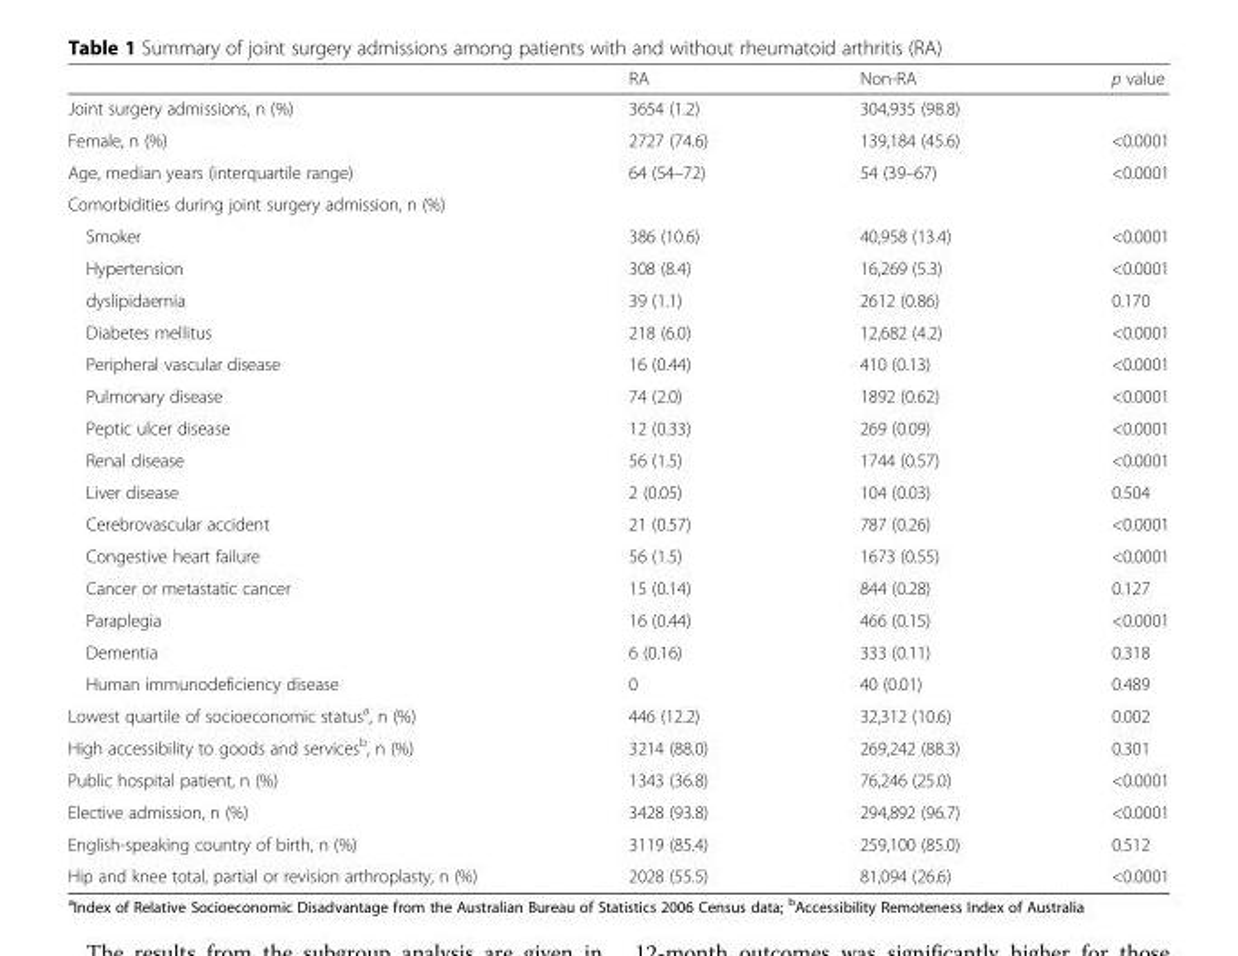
<table><thead><tr><td></td><td>RA</td><td>Non-RA</td><td>p value</td></tr></thead><tbody><tr><td>Joint surgery admissions, n (%)</td><td>3654 (1.2)</td><td>304,935 (98.8)</td><td></td></tr><tr><td>Female, n (%)</td><td>2727 (74.6)</td><td>139,184 (45.6)</td><td>&lt;0.0001</td></tr><tr><td>Age, median years (interquartile range)</td><td>64 (54–72)</td><td>54 (39–67)</td><td>&lt;0.0001</td></tr><tr><td colspan="4">Comorbidities during joint surgery admission, n (%)</td></tr><tr><td>Smoker</td><td>386 (10.6)</td><td>40,958 (13.4)</td><td>&lt;0.0001</td></tr><tr><td>Hypertension</td><td>308 (8.4)</td><td>16,269 (5.3)</td><td>&lt;0.0001</td></tr><tr><td>dyslipidaemia</td><td>39 (1.1)</td><td>2612 (0.86)</td><td>0.170</td></tr><tr><td>Diabetes mellitus</td><td>218 (6.0)</td><td>12,682 (4.2)</td><td>&lt;0.0001</td></tr><tr><td>Peripheral vascular disease</td><td>16 (0.44)</td><td>410 (0.13)</td><td>&lt;0.0001</td></tr><tr><td>Pulmonary disease</td><td>74 (2.0)</td><td>1892 (0.62)</td><td>&lt;0.0001</td></tr><tr><td>Peptic ulcer disease</td><td>12 (0.33)</td><td>269 (0.09)</td><td>&lt;0.0001</td></tr><tr><td>Renal disease</td><td>56 (1.5)</td><td>1744 (0.57)</td><td>&lt;0.0001</td></tr><tr><td>Liver disease</td><td>2 (0.05)</td><td>104 (0.03)</td><td>0.504</td></tr><tr><td>Cerebrovascular accident</td><td>21 (0.57)</td><td>787 (0.26)</td><td>&lt;0.0001</td></tr><tr><td>Congestive heart failure</td><td>56 (1.5)</td><td>1673 (0.55)</td><td>&lt;0.0001</td></tr><tr><td>Cancer or metastatic cancer</td><td>15 (0.14)</td><td>844 (0.28)</td><td>0.127</td></tr><tr><td>Paraplegia</td><td>16 (0.44)</td><td>466 (0.15)</td><td>&lt;0.0001</td></tr><tr><td>Dementia</td><td>6 (0.16)</td><td>333 (0.11)</td><td>0.318</td></tr><tr><td>Human immunodeficiency disease</td><td>0</td><td>40 (0.01)</td><td>0.489</td></tr><tr><td>Lowest quartile of socioeconomic status<sup>a</sup>, n (%)</td><td>446 (12.2)</td><td>32,312 (10.6)</td><td>0.002</td></tr><tr><td>High accessibility to goods and services<sup>b</sup>, n (%)</td><td>3214 (88.0)</td><td>269,242 (88.3)</td><td>0.301</td></tr><tr><td>Public hospital patient, n (%)</td><td>1343 (36.8)</td><td>76,246 (25.0)</td><td>&lt;0.0001</td></tr><tr><td>Elective admission, n (%)</td><td>3428 (93.8)</td><td>294,892 (96.7)</td><td>&lt;0.0001</td></tr><tr><td>English-speaking country of birth, n (%)</td><td>3119 (85.4)</td><td>259,100 (85.0)</td><td>0.512</td></tr><tr><td>Hip and knee total, partial or revision arthroplasty, n (%)</td><td>2028 (55.5)</td><td>81,094 (26.6)</td><td>&lt;0.0001</td></tr></tbody></table>